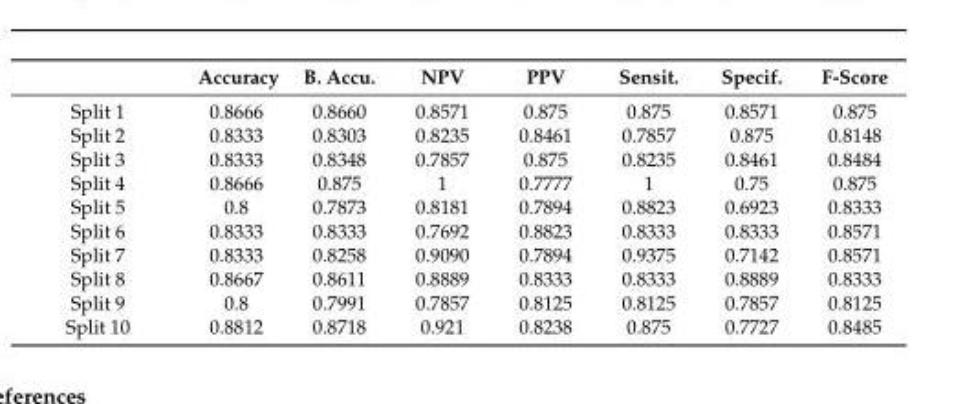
<table><thead><tr><td></td><td>Accuracy</td><td>B. Accu.</td><td>NPV</td><td>PPV</td><td>Sensit.</td><td>Specif.</td><td>F-Score</td></tr></thead><tbody><tr><td>Split 1</td><td>0.8666</td><td>0.8660</td><td>0.8571</td><td>0.875</td><td>0.875</td><td>0.8571</td><td>0.875</td></tr><tr><td>Split 2</td><td>0.8333</td><td>0.8303</td><td>0.8235</td><td>0.8461</td><td>0.7857</td><td>0.875</td><td>0.8148</td></tr><tr><td>Split 3</td><td>0.8333</td><td>0.8348</td><td>0.7857</td><td>0.875</td><td>0.8235</td><td>0.8461</td><td>0.8484</td></tr><tr><td>Split 4</td><td>0.8666</td><td>0.875</td><td>1</td><td>0.7777</td><td>1</td><td>0.75</td><td>0.875</td></tr><tr><td>Split 5</td><td>0.8</td><td>0.7873</td><td>0.8181</td><td>0.7894</td><td>0.8823</td><td>0.6923</td><td>0.8333</td></tr><tr><td>Split 6</td><td>0.8333</td><td>0.8333</td><td>0.7692</td><td>0.8823</td><td>0.8333</td><td>0.8333</td><td>0.8571</td></tr><tr><td>Split 7</td><td>0.8333</td><td>0.8258</td><td>0.9090</td><td>0.7894</td><td>0.9375</td><td>0.7142</td><td>0.8571</td></tr><tr><td>Split 8</td><td>0.8667</td><td>0.8611</td><td>0.8889</td><td>0.8333</td><td>0.8333</td><td>0.8889</td><td>0.8333</td></tr><tr><td>Split 9</td><td>0.8</td><td>0.7991</td><td>0.7857</td><td>0.8125</td><td>0.8125</td><td>0.7857</td><td>0.8125</td></tr><tr><td>Split 10</td><td>0.8812</td><td>0.8718</td><td>0.921</td><td>0.8238</td><td>0.875</td><td>0.7727</td><td>0.8485</td></tr></tbody></table>